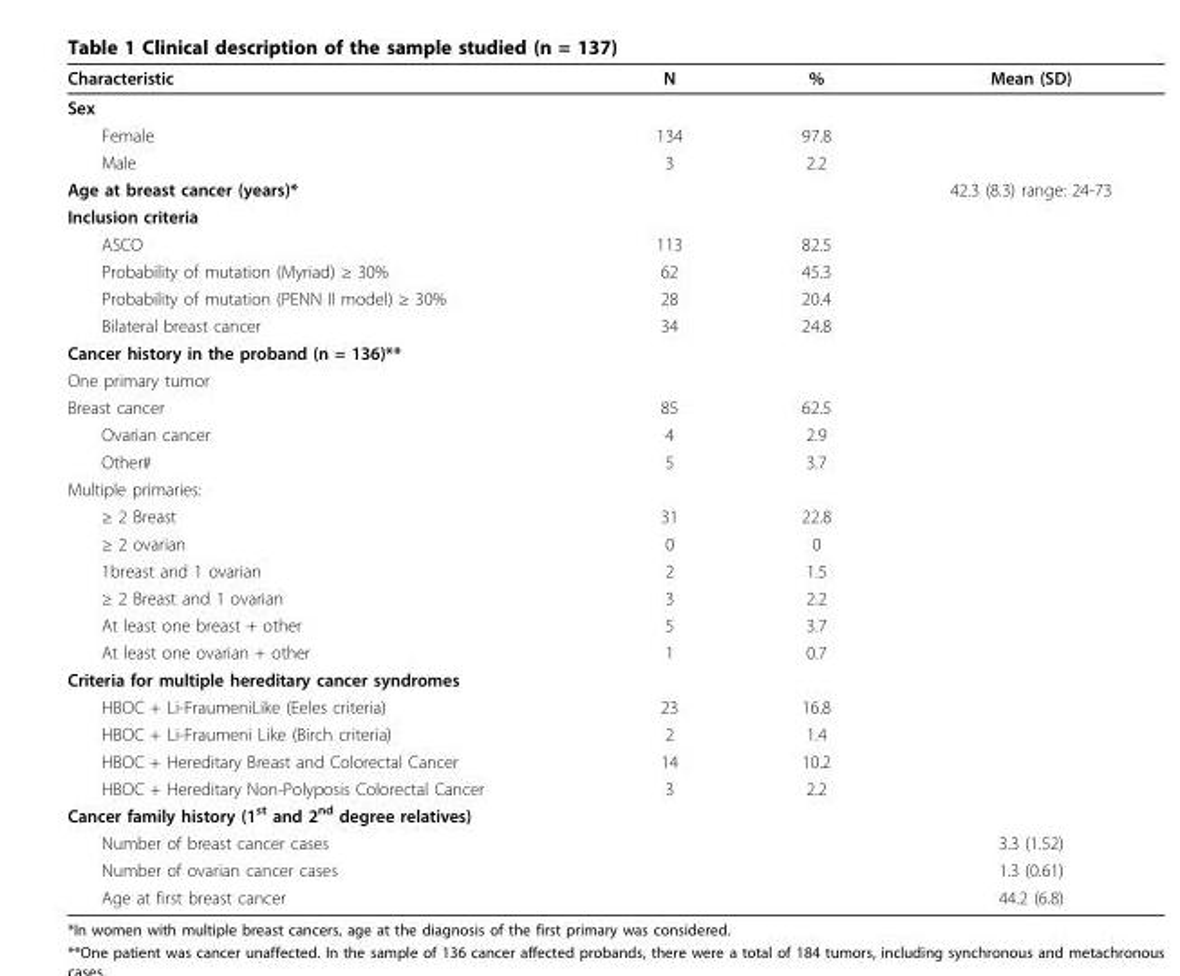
<table><thead><tr><td>Characteristic</td><td>N</td><td>%</td><td>Mean (SD)</td></tr></thead><tbody><tr><td colspan="4">Sex</td></tr><tr><td>Female</td><td>134</td><td>97.8</td><td></td></tr><tr><td>Male</td><td>3</td><td>2.2</td><td></td></tr><tr><td>Age at breast cancer (years)*</td><td></td><td></td><td>42.3 (8.3) range: 24-73</td></tr><tr><td colspan="4">Inclusion criteria</td></tr><tr><td>ASCO</td><td>113</td><td>82.5</td><td></td></tr><tr><td>Probability of mutation (Myriad) ≥ 30%</td><td>62</td><td>45.3</td><td></td></tr><tr><td>Probability of mutation (PENN II model) ≥ 30%</td><td>28</td><td>20.4</td><td></td></tr><tr><td>Bilateral breast cancer</td><td>34</td><td>24.8</td><td></td></tr><tr><td colspan="4">Cancer history in the proband (n = 136)**</td></tr><tr><td colspan="4">One primary tumor</td></tr><tr><td>Breast cancer</td><td>85</td><td>62.5</td><td></td></tr><tr><td>Ovarian cancer</td><td>4</td><td>2.9</td><td></td></tr><tr><td>Other#</td><td>5</td><td>3.7</td><td></td></tr><tr><td colspan="4">Multiple primaries:</td></tr><tr><td>≥ 2 Breast</td><td>31</td><td>22.8</td><td></td></tr><tr><td>≥ 2 ovarian</td><td>0</td><td>0</td><td></td></tr><tr><td>1breast and 1 ovarian</td><td>2</td><td>1.5</td><td></td></tr><tr><td>≥ 2 Breast and 1 ovarian</td><td>3</td><td>2.2</td><td></td></tr><tr><td>At least one breast + other</td><td>5</td><td>3.7</td><td></td></tr><tr><td>At least one ovarian + other</td><td>1</td><td>0.7</td><td></td></tr><tr><td colspan="4">Criteria for multiple hereditary cancer syndromes</td></tr><tr><td>HBOC + Li-FraumeniLike (Eeles criteria)</td><td>23</td><td>16.8</td><td></td></tr><tr><td>HBOC + Li-Fraumeni Like (Birch criteria)</td><td>2</td><td>1.4</td><td></td></tr><tr><td>HBOC + Hereditary Breast and Colorectal Cancer</td><td>14</td><td>10.2</td><td></td></tr><tr><td>HBOC + Hereditary Non-Polyposis Colorectal Cancer</td><td>3</td><td>2.2</td><td></td></tr><tr><td colspan="4">Cancer family history (1<sup>st</sup> and 2<sup>nd</sup> degree relatives)</td></tr><tr><td>Number of breast cancer cases</td><td></td><td></td><td>3.3 (1.52)</td></tr><tr><td>Number of ovarian cancer cases</td><td></td><td></td><td>1.3 (0.61)</td></tr><tr><td>Age at first breast cancer</td><td></td><td></td><td>44.2 (6.8)</td></tr></tbody></table>